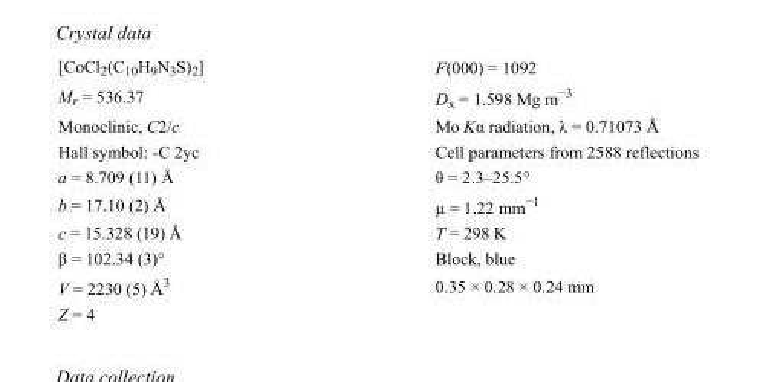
<table><tbody><tr><td>[CoCl<sub>2</sub>(C<sub>10</sub>H<sub>9</sub>N<sub>3</sub>S)<sub>2</sub>]</td><td>F(000) = 1092</td></tr><tr><td>M<sub>r</sub> = 536.37</td><td>D<sub>x</sub> = 1.598 Mg m<sup>−3</sup></td></tr><tr><td>Monoclinic, C2/c</td><td>Mo Kα radiation, λ = 0.71073 Å</td></tr><tr><td>Hall symbol: -C 2yc</td><td>Cell parameters from 2588 reflections</td></tr><tr><td>a = 8.709 (11) Å</td><td>θ = 2.3–25.5°</td></tr><tr><td>b = 17.10 (2) Å</td><td>µ = 1.22 mm<sup>−1</sup></td></tr><tr><td>c = 15.328 (19) Å</td><td>T = 298 K</td></tr><tr><td>β = 102.34 (3)°</td><td>Block, blue</td></tr><tr><td>V = 2230 (5) Å<sup>3</sup></td><td>0.35 × 0.28 × 0.24 mm</td></tr><tr><td>Z = 4</td><td></td></tr></tbody></table>